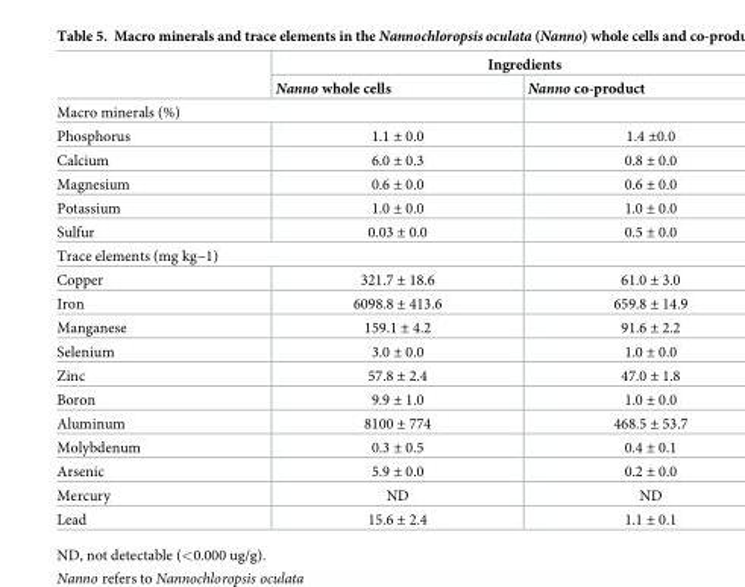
<table><thead><tr><td rowspan="2"></td><td colspan="2">Ingredients</td></tr><tr><td>Nanno whole cells</td><td>Nanno co-product</td></tr></thead><tbody><tr><td colspan="3">Macro minerals (%)</td></tr><tr><td>Phosphorus</td><td>1.1 ± 0.0</td><td>1.4 ±0.0</td></tr><tr><td>Calcium</td><td>6.0 ± 0.3</td><td>0.8 ± 0.0</td></tr><tr><td>Magnesium</td><td>0.6 ± 0.0</td><td>0.6 ± 0.0</td></tr><tr><td>Potassium</td><td>1.0 ± 0.0</td><td>1.0 ± 0.0</td></tr><tr><td>Sulfur</td><td>0.03 ± 0.0</td><td>0.5 ± 0.0</td></tr><tr><td colspan="3">Trace elements (mg kg−1)</td></tr><tr><td>Copper</td><td>321.7 ± 18.6</td><td>61.0 ± 3.0</td></tr><tr><td>Iron</td><td>6098.8 ± 413.6</td><td>659.8 ± 14.9</td></tr><tr><td>Manganese</td><td>159.1 ± 4.2</td><td>91.6 ± 2.2</td></tr><tr><td>Selenium</td><td>3.0 ± 0.0</td><td>1.0 ± 0.0</td></tr><tr><td>Zinc</td><td>57.8 ± 2.4</td><td>47.0 ± 1.8</td></tr><tr><td>Boron</td><td>9.9 ± 1.0</td><td>1.0 ± 0.0</td></tr><tr><td>Aluminum</td><td>8100 ± 774</td><td>468.5 ± 53.7</td></tr><tr><td>Molybdenum</td><td>0.3 ± 0.5</td><td>0.4 ± 0.1</td></tr><tr><td>Arsenic</td><td>5.9 ± 0.0</td><td>0.2 ± 0.0</td></tr><tr><td>Mercury</td><td>ND</td><td>ND</td></tr><tr><td>Lead</td><td>15.6 ± 2.4</td><td>1.1 ± 0.1</td></tr></tbody></table>